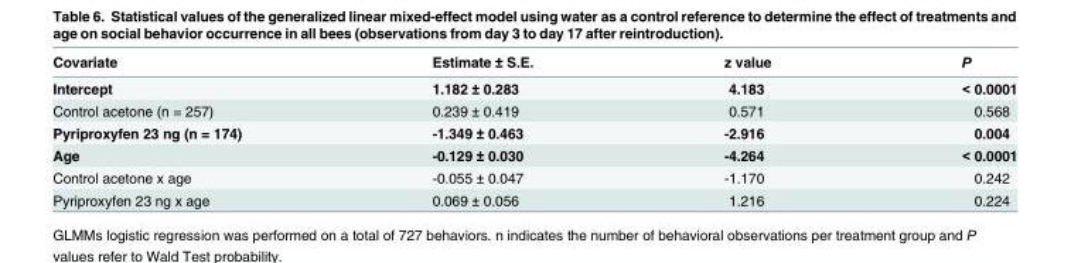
<table><thead><tr><td>Covariate</td><td>Estimate ± S.E.</td><td>z value</td><td>P</td></tr></thead><tbody><tr><td>Intercept</td><td>1.182 ± 0.283</td><td>4.183</td><td>&lt; 0.0001</td></tr><tr><td>Control acetone (n = 257)</td><td>0.239 ± 0.419</td><td>0.571</td><td>0.568</td></tr><tr><td>Pyriproxyfen 23 ng (n = 174)</td><td>-1.349 ± 0.463</td><td>-2.916</td><td>0.004</td></tr><tr><td>Age</td><td>-0.129 ± 0.030</td><td>-4.264</td><td>&lt; 0.0001</td></tr><tr><td>Control acetone x age</td><td>-0.055 ± 0.047</td><td>-1.170</td><td>0.242</td></tr><tr><td>Pyriproxyfen 23 ng x age</td><td>0.069 ± 0.056</td><td>1.216</td><td>0.224</td></tr></tbody></table>